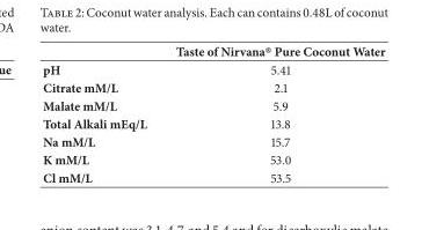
<table><thead><tr><td></td><td>Taste of Nirvana® Pure Coconut Water</td></tr></thead><tbody><tr><td>pH</td><td>5.41</td></tr><tr><td>Citrate mM/L</td><td>2.1</td></tr><tr><td>Malate mM/L</td><td>5.9</td></tr><tr><td>Total Alkali mEq/L</td><td>13.8</td></tr><tr><td>Na mM/L</td><td>15.7</td></tr><tr><td>K mM/L</td><td>53.0</td></tr><tr><td>Cl mM/L</td><td>53.5</td></tr></tbody></table>